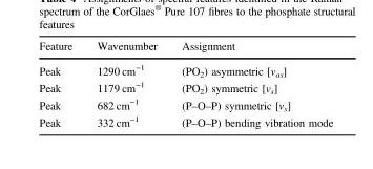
<table><thead><tr><td>Feature</td><td>Wavenumber</td><td>Assignment</td></tr></thead><tbody><tr><td>Peak</td><td>1290 cm<sup>−1</sup></td><td>(PO<sub>2</sub>) asymmetric [v<sub>as</sub>]</td></tr><tr><td>Peak</td><td>1179 cm<sup>−1</sup></td><td>(PO<sub>2</sub>) symmetric [v<sub>s</sub>]</td></tr><tr><td>Peak</td><td>682 cm<sup>−1</sup></td><td>(P–O–P) symmetric [v<sub>s</sub>]</td></tr><tr><td>Peak</td><td>332 cm<sup>−1</sup></td><td>(P–O–P) bending vibration mode</td></tr></tbody></table>